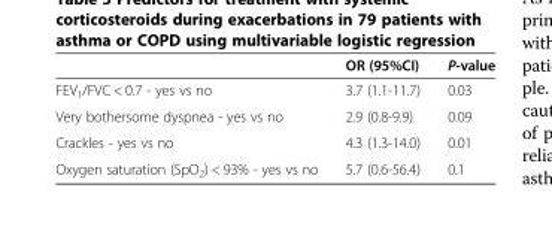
<table><thead><tr><td></td><td>OR (95%CI)</td><td>P-value</td></tr></thead><tbody><tr><td>FEV<sub>1</sub>/FVC &lt; 0.7 - yes vs no</td><td>3.7 (1.1-11.7)</td><td>0.03</td></tr><tr><td>Very bothersome dyspnea - yes vs no</td><td>2.9 (0.8-9.9)</td><td>0.09</td></tr><tr><td>Crackles - yes vs no</td><td>4.3 (1.3-14.0)</td><td>0.01</td></tr><tr><td>Oxygen saturation (SpO<sub>2</sub>) &lt; 93% - yes vs no</td><td>5.7 (0.6-56.4)</td><td>0.1</td></tr></tbody></table>